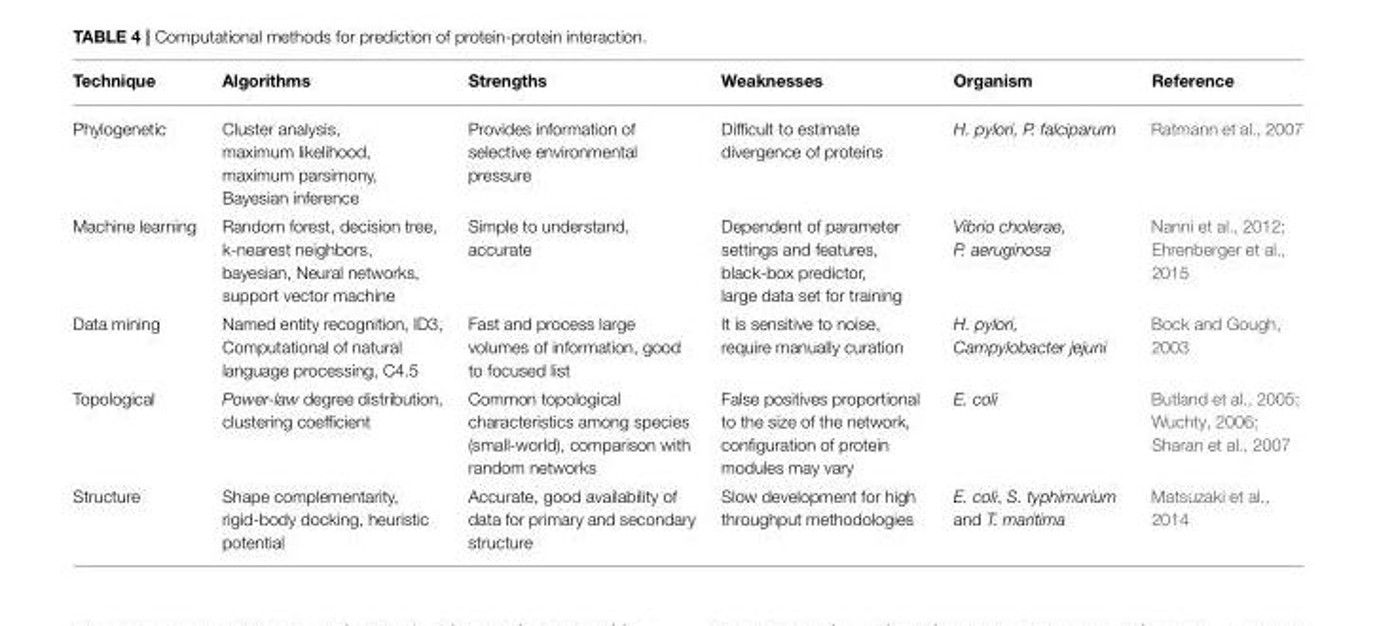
<table><thead><tr><td>Technique</td><td>Algorithms</td><td>Strengths</td><td>Weaknesses</td><td>Organism</td><td>Reference</td></tr></thead><tbody><tr><td>Phylogenetic</td><td>Cluster analysis, maximum likelihood, maximum parsimony, Bayesian inference</td><td>Provides information of selective environmental pressure</td><td>Difficult to estimate divergence of proteins</td><td>H. pylori, P. falciparum</td><td>Ratmann et al., 2007</td></tr><tr><td>Machine learning</td><td>Random forest, decision tree, k-nearest neighbors, bayesian, Neural networks, support vector machine</td><td>Simple to understand, accurate</td><td>Dependent of parameter settings and features, black-box predictor, large data set for training</td><td>Vibrio cholerae, P. aeruginosa</td><td>Nanni et al., 2012; Ehrenberger et al., 2015</td></tr><tr><td>Data mining</td><td>Named entity recognition, ID3, Computational of natural language processing, C4.5</td><td>Fast and process large volumes of information, good to focused list</td><td>It is sensitive to noise, require manually curation</td><td>H. pylori, Campylobacter jejuni</td><td>Bock and Gough, 2003</td></tr><tr><td>Topological</td><td>Power-law degree distribution, clustering coefficient</td><td>Common topological characteristics among species (small-world), comparison with random networks</td><td>False positives proportional to the size of the network, configuration of protein modules may vary</td><td>E. coli</td><td>Butland et al., 2005; Wuchty, 2006; Sharan et al., 2007</td></tr><tr><td>Structure</td><td>Shape complementarity, rigid-body docking, heuristic potential</td><td>Accurate, good availability of data for primary and secondary structure</td><td>Slow development for high throughput methodologies</td><td>E. coli, S. typhimurium and T. maritima</td><td>Matsuzaki et al., 2014</td></tr></tbody></table>